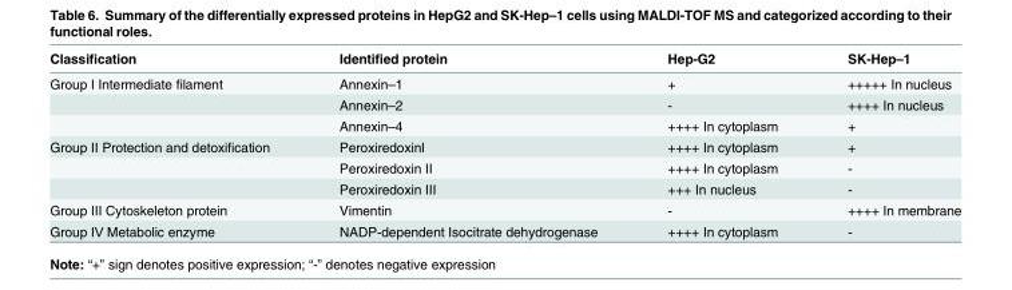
<table><thead><tr><td>Classification</td><td>Identified protein</td><td>Hep-G2</td><td>SK-Hep–1</td></tr></thead><tbody><tr><td rowspan="3">Group Ⅰ Intermediate filament</td><td>Annexin–1</td><td>+</td><td>+++++ In nucleus</td></tr><tr><td>Annexin–2</td><td>-</td><td>++++ In nucleus</td></tr><tr><td>Annexin–4</td><td>++++ In cytoplasm</td><td>+</td></tr><tr><td rowspan="3">Group Ⅱ Protection and detoxification</td><td>PeroxiredoxinⅠ</td><td>++++ In cytoplasm</td><td>+</td></tr><tr><td>Peroxiredoxin Ⅱ</td><td>++++ In cytoplasm</td><td>-</td></tr><tr><td>Peroxiredoxin Ⅲ</td><td>+++ In nucleus</td><td>-</td></tr><tr><td>Group Ⅲ Cytoskeleton protein</td><td>Vimentin</td><td>-</td><td>++++ In membrane</td></tr><tr><td>Group Ⅳ Metabolic enzyme</td><td>NADP-dependent Isocitrate dehydrogenase</td><td>++++ In cytoplasm</td><td>-</td></tr></tbody></table>